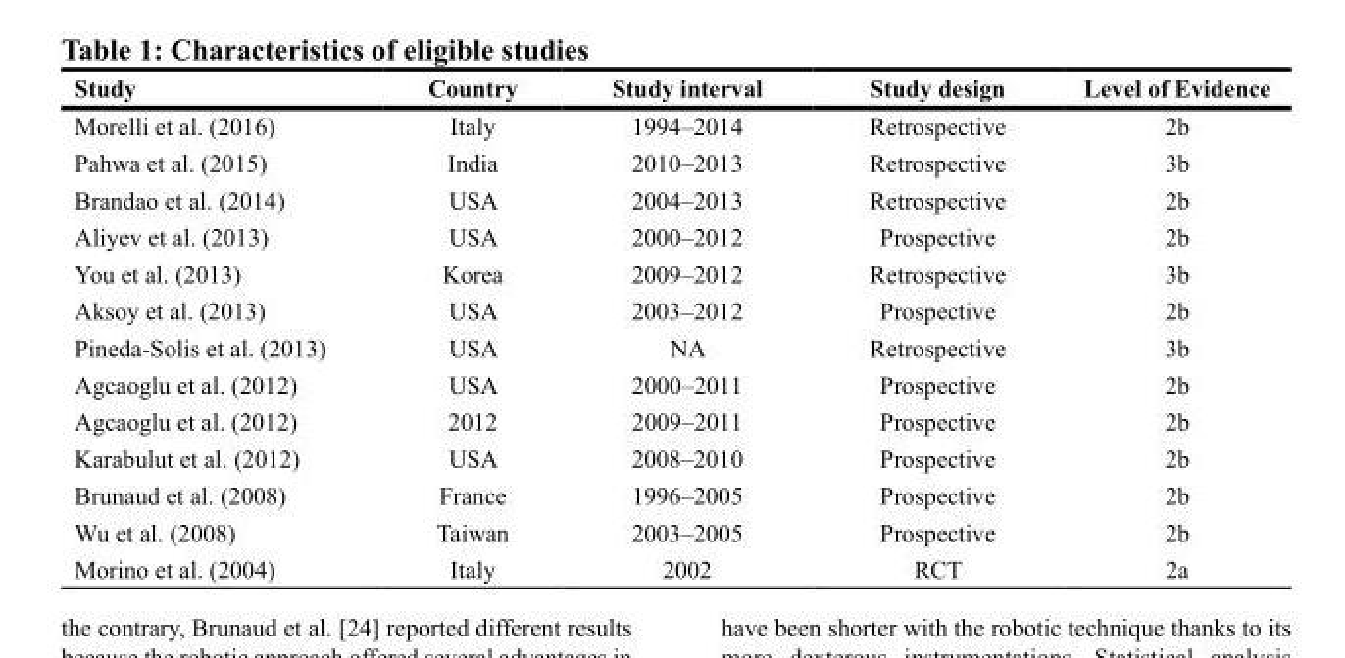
<table><thead><tr><td>Study</td><td>Country</td><td>Study interval</td><td>Study design</td><td>Level of Evidence</td></tr></thead><tbody><tr><td>Morelli et al. (2016)</td><td>Italy</td><td>1994–2014</td><td>Retrospective</td><td>2b</td></tr><tr><td>Pahwa et al. (2015)</td><td>India</td><td>2010–2013</td><td>Retrospective</td><td>3b</td></tr><tr><td>Brandao et al. (2014)</td><td>USA</td><td>2004–2013</td><td>Retrospective</td><td>2b</td></tr><tr><td>Aliyev et al. (2013)</td><td>USA</td><td>2000–2012</td><td>Prospective</td><td>2b</td></tr><tr><td>You et al. (2013)</td><td>Korea</td><td>2009–2012</td><td>Retrospective</td><td>3b</td></tr><tr><td>Aksoy et al. (2013)</td><td>USA</td><td>2003–2012</td><td>Prospective</td><td>2b</td></tr><tr><td>Pineda-Solis et al. (2013)</td><td>USA</td><td>NA</td><td>Retrospective</td><td>3b</td></tr><tr><td>Agcaoglu et al. (2012)</td><td>USA</td><td>2000–2011</td><td>Prospective</td><td>2b</td></tr><tr><td>Agcaoglu et al. (2012)</td><td>2012</td><td>2009–2011</td><td>Prospective</td><td>2b</td></tr><tr><td>Karabulut et al. (2012)</td><td>USA</td><td>2008–2010</td><td>Prospective</td><td>2b</td></tr><tr><td>Brunaud et al. (2008)</td><td>France</td><td>1996–2005</td><td>Prospective</td><td>2b</td></tr><tr><td>Wu et al. (2008)</td><td>Taiwan</td><td>2003–2005</td><td>Prospective</td><td>2b</td></tr><tr><td>Morino et al. (2004)</td><td>Italy</td><td>2002</td><td>RCT</td><td>2a</td></tr></tbody></table>